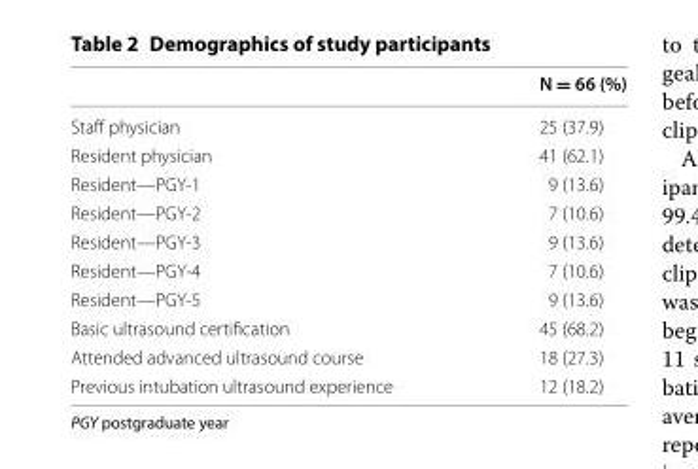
<table><thead><tr><td></td><td>N = 66 (%)</td></tr></thead><tbody><tr><td>Staff physician</td><td>25 (37.9)</td></tr><tr><td>Resident physician</td><td>41 (62.1)</td></tr><tr><td>Resident—PGY-1</td><td>9 (13.6)</td></tr><tr><td>Resident—PGY-2</td><td>7 (10.6)</td></tr><tr><td>Resident—PGY-3</td><td>9 (13.6)</td></tr><tr><td>Resident—PGY-4</td><td>7 (10.6)</td></tr><tr><td>Resident—PGY-5</td><td>9 (13.6)</td></tr><tr><td>Basic ultrasound certification</td><td>45 (68.2)</td></tr><tr><td>Attended advanced ultrasound course</td><td>18 (27.3)</td></tr><tr><td>Previous intubation ultrasound experience</td><td>12 (18.2)</td></tr></tbody></table>